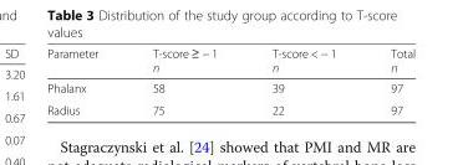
<table><thead><tr><td>Parameter</td><td>T-score ≥ − 1 n</td><td>T-score &lt; − 1 n</td><td>Total n</td></tr></thead><tbody><tr><td>Phalanx</td><td>58</td><td>39</td><td>97</td></tr><tr><td>Radius</td><td>75</td><td>22</td><td>97</td></tr></tbody></table>